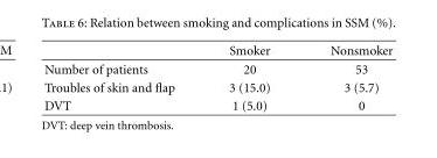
<table><thead><tr><td></td><td>Smoker</td><td>Nonsmoker</td></tr></thead><tbody><tr><td>Number of patients</td><td>20</td><td>53</td></tr><tr><td>Troubles of skin and flap</td><td>3 (15.0)</td><td>3 (5.7)</td></tr><tr><td>DVT</td><td>1 (5.0)</td><td>0</td></tr></tbody></table>